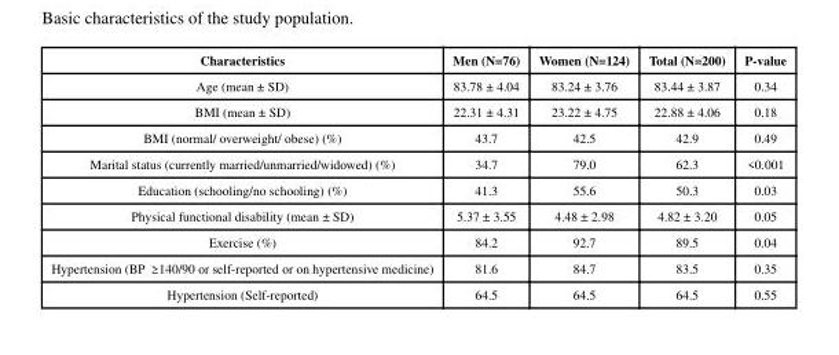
<table><thead><tr><td>Characteristics</td><td>Men (N=76)</td><td>Women (N=124)</td><td>Total (N=200)</td><td>P-value</td></tr></thead><tbody><tr><td>Age (mean ± SD)</td><td>83.78 ± 4.04</td><td>83.24 ± 3.76</td><td>83.44 ± 3.87</td><td>0.34</td></tr><tr><td>BMI (mean ± SD)</td><td>22.31 ± 4.31</td><td>23.22 ± 4.75</td><td>22.88 ± 4.06</td><td>0.18</td></tr><tr><td>BMI (normal/ overweight/ obese) (%)</td><td>43.7</td><td>42.5</td><td>42.9</td><td>0.49</td></tr><tr><td>Marital status (currently married/unmarried/widowed) (%)</td><td>34.7</td><td>79.0</td><td>62.3</td><td>&lt;0.001</td></tr><tr><td>Education (schooling/no schooling) (%)</td><td>41.3</td><td>55.6</td><td>50.3</td><td>0.03</td></tr><tr><td>Physical functional disability (mean ± SD)</td><td>5.37 ± 3.55</td><td>4.48 ± 2.98</td><td>4.82 ± 3.20</td><td>0.05</td></tr><tr><td>Exercise (%)</td><td>84.2</td><td>92.7</td><td>89.5</td><td>0.04</td></tr><tr><td>Hypertension (BP ≥ 140/90 or self-reported or on hypertensive medicine)</td><td>81.6</td><td>84.7</td><td>83.5</td><td>0.35</td></tr><tr><td>Hypertension (Self-reported)</td><td>64.5</td><td>64.5</td><td>64.5</td><td>0.55</td></tr></tbody></table>